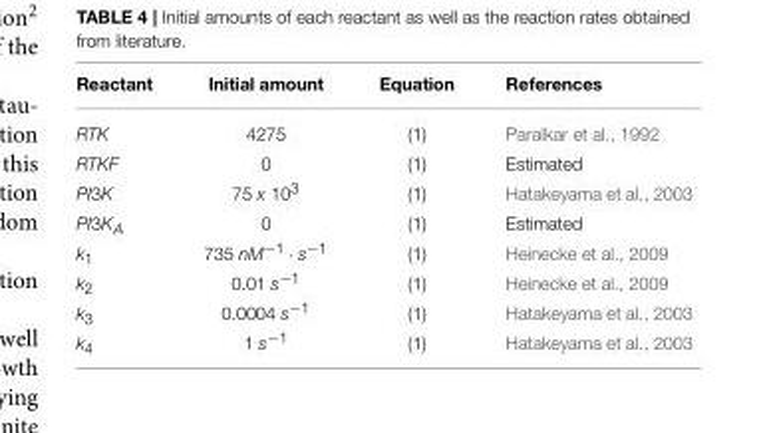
<table><thead><tr><td>Reactant</td><td>Initial amount</td><td>Equation</td><td>References</td></tr></thead><tbody><tr><td>RTK</td><td>4275</td><td>(1)</td><td>Paralkar et al., 1992</td></tr><tr><td>RTKF</td><td>0</td><td>(1)</td><td>Estimated</td></tr><tr><td>PI3K</td><td>75 x 10<sup>3</sup></td><td>(1)</td><td>Hatakeyama et al., 2003</td></tr><tr><td>PI3K<sub>A</sub></td><td>0</td><td>(1)</td><td>Estimated</td></tr><tr><td>k<sub>1</sub></td><td>735 nM<sup>−1</sup> · s<sup>−1</sup></td><td>(1)</td><td>Heinecke et al., 2009</td></tr><tr><td>k<sub>2</sub></td><td>0.01 s<sup>−1</sup></td><td>(1)</td><td>Heinecke et al., 2009</td></tr><tr><td>k<sub>3</sub></td><td>0.0004 s<sup>−1</sup></td><td>(1)</td><td>Hatakeyama et al., 2003</td></tr><tr><td>k<sub>4</sub></td><td>1 s<sup>−1</sup></td><td>(1)</td><td>Hatakeyama et al., 2003</td></tr></tbody></table>